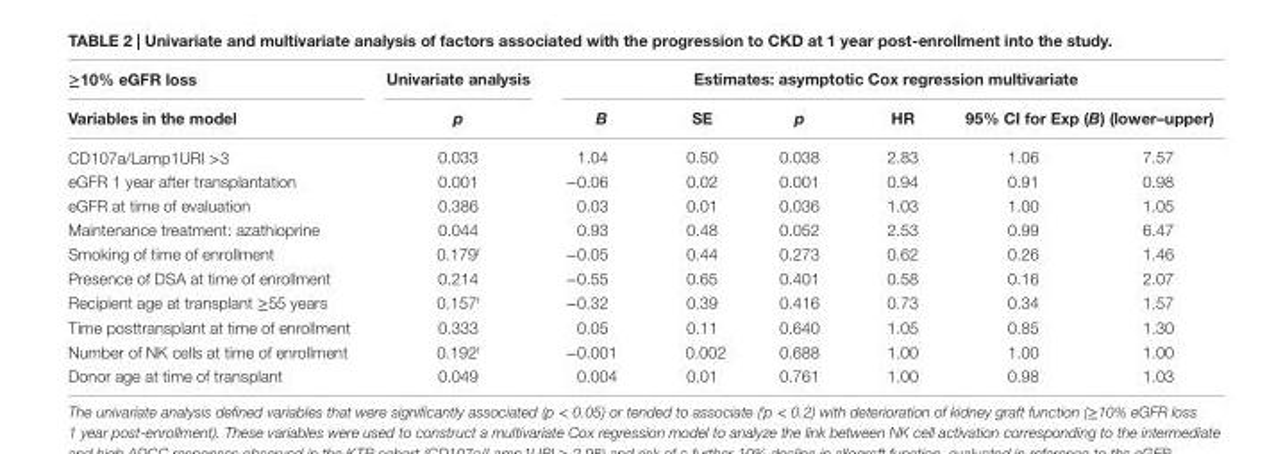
<table><thead><tr><td rowspan="3">≥10% egFr loss Variables in the model CD107a/Lamp1URI &gt;3</td><td rowspan="3">Univariate analysis p 0.033</td><td colspan="6">estimates: asymptotic cox regression multivariate</td></tr><tr><td rowspan="2">B 1.04</td><td rowspan="2">se 0.50</td><td rowspan="2">p 0.038</td><td rowspan="2">hr 2.83</td><td colspan="2">95% ci for exp (B) (lower–upper)</td></tr><tr><td>1.06</td><td>7.57</td></tr></thead><tbody><tr><td>eGFR 1 year after transplantation</td><td>0.001</td><td>−0.06</td><td>0.02</td><td>0.001</td><td>0.94</td><td>0.91</td><td>0.98</td></tr><tr><td>eGFR at time of evaluation</td><td>0.386</td><td>0.03</td><td>0.01</td><td>0.036</td><td>1.03</td><td>1.00</td><td>1.05</td></tr><tr><td>Maintenance treatment: azathioprine</td><td>0.044</td><td>0.93</td><td>0.48</td><td>0.052</td><td>2.53</td><td>0.99</td><td>6.47</td></tr><tr><td>Smoking of time of enrollment</td><td>0.179<sup>t</sup></td><td>−0.05</td><td>0.44</td><td>0.273</td><td>0.62</td><td>0.26</td><td>1.46</td></tr><tr><td>Presence of DSA at time of enrollment</td><td>0.214</td><td>−0.55</td><td>0.65</td><td>0.401</td><td>0.58</td><td>0.16</td><td>2.07</td></tr><tr><td>Recipient age at transplant ≥55 years</td><td>0.157<sup>t</sup></td><td>−0.32</td><td>0.39</td><td>0.416</td><td>0.73</td><td>0.34</td><td>1.57</td></tr><tr><td>Time posttransplant at time of enrollment</td><td>0.333</td><td>0.05</td><td>0.11</td><td>0.640</td><td>1.05</td><td>0.85</td><td>1.30</td></tr><tr><td>Number of NK cells at time of enrollment</td><td>0.192<sup>t</sup></td><td>−0.001</td><td>0.002</td><td>0.688</td><td>1.00</td><td>1.00</td><td>1.00</td></tr><tr><td>Donor age at time of transplant</td><td>0.049</td><td>0.004</td><td>0.01</td><td>0.761</td><td>1.00</td><td>0.98</td><td>1.03</td></tr></tbody></table>